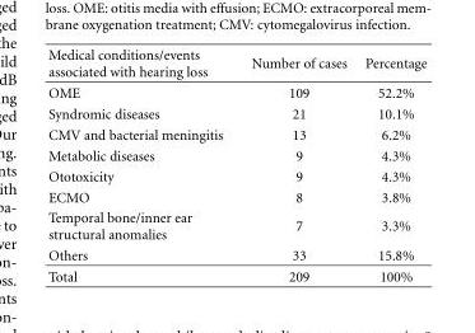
<table><thead><tr><td>Medical conditions/events associated with hearing loss</td><td>Number of cases</td><td>Percentage</td></tr></thead><tbody><tr><td>OME</td><td>109</td><td>52.2%</td></tr><tr><td>Syndromic diseases</td><td>21</td><td>10.1%</td></tr><tr><td>CMV and bacterial meningitis</td><td>13</td><td>6.2%</td></tr><tr><td>Metabolic diseases</td><td>9</td><td>4.3%</td></tr><tr><td>Ototoxicity</td><td>9</td><td>4.3%</td></tr><tr><td>ECMO</td><td>8</td><td>3.8%</td></tr><tr><td>Temporal bone/inner ear structural anomalies</td><td>7</td><td>3.3%</td></tr><tr><td>Others</td><td>33</td><td>15.8%</td></tr><tr><td>Total</td><td>209</td><td>100%</td></tr></tbody></table>